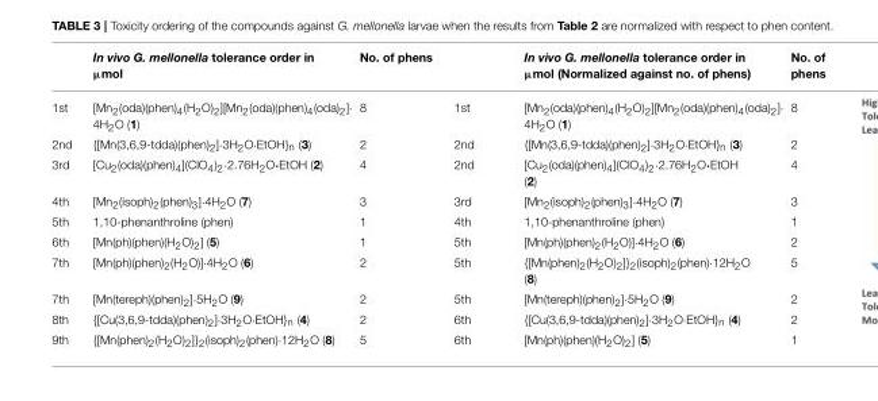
<table><thead><tr><td></td><td>In vivo G. mellonella tolerance order in µmol</td><td>No. of phens</td><td></td><td>In vivo G. mellonella tolerance order in µmol (Normalized against no. of phens)</td><td>No. of phens</td></tr></thead><tbody><tr><td>1st</td><td>[Mn<sub>2</sub>(oda)(phen)<sub>4</sub>(H<sub>2</sub>O)<sub>2</sub>][Mn<sub>2</sub>(oda)(phen)<sub>4</sub>(oda)<sub>2</sub>]· 4H<sub>2</sub>O (1)</td><td>8</td><td>1st</td><td>[Mn<sub>2</sub>(oda)(phen)<sub>4</sub>(H<sub>2</sub>O)<sub>2</sub>][Mn<sub>2</sub>(oda)(phen)<sub>4</sub>(oda)<sub>2</sub>]· 4H<sub>2</sub>O (1)</td><td>8</td></tr><tr><td>2nd</td><td>{[Mn(3,6,9-tdda)(phen)<sub>2</sub>]·3H<sub>2</sub>O·EtOH}<sub>n</sub> (3)</td><td>2</td><td>2nd</td><td>{[Mn(3,6,9-tdda)(phen)<sub>2</sub>]·3H<sub>2</sub>O·EtOH}<sub>n</sub> (3)</td><td>2</td></tr><tr><td>3rd</td><td>[Cu<sub>2</sub>(oda)(phen)<sub>4</sub>](ClO<sub>4</sub>)<sub>2</sub>·2.76H<sub>2</sub>O·EtOH (2)</td><td>4</td><td>2nd</td><td>[Cu<sub>2</sub>(oda)(phen)<sub>4</sub>](ClO<sub>4</sub>)<sub>2</sub>·2.76H<sub>2</sub>O·EtOH (2)</td><td>4</td></tr><tr><td>4th</td><td>[Mn<sub>2</sub>(isoph)<sub>2</sub>(phen)<sub>3</sub>]·4H<sub>2</sub>O (7)</td><td>3</td><td>3rd</td><td>[Mn<sub>2</sub>(isoph)<sub>2</sub>(phen)<sub>3</sub>]·4H<sub>2</sub>O (7)</td><td>3</td></tr><tr><td>5th</td><td>1,10-phenanthroline (phen)</td><td>1</td><td>4th</td><td>1,10-phenanthroline (phen)</td><td>1</td></tr><tr><td>6th</td><td>[Mn(ph)(phen)(H<sub>2</sub>O)<sub>2</sub>] (5)</td><td>1</td><td>5th</td><td>[Mn(ph)(phen)<sub>2</sub>(H<sub>2</sub>O)]·4H<sub>2</sub>O (6)</td><td>2</td></tr><tr><td>7th</td><td>[Mn(ph)(phen)<sub>2</sub>(H<sub>2</sub>O)]·4H<sub>2</sub>O (6)</td><td>2</td><td>5th</td><td>{[Mn(phen)<sub>2</sub>(H<sub>2</sub>O)<sub>2</sub>]}<sub>2</sub>(isoph)<sub>2</sub>(phen)·12H<sub>2</sub>O (8)</td><td>5</td></tr><tr><td>7th</td><td>[Mn(tereph)(phen)<sub>2</sub>]·5H<sub>2</sub>O (9)</td><td>2</td><td>5th</td><td>[Mn(tereph)(phen)<sub>2</sub>]·5H<sub>2</sub>O (9)</td><td>2</td></tr><tr><td>8th</td><td>{[Cu(3,6,9-tdda)(phen)<sub>2</sub>]·3H<sub>2</sub>O·EtOH}<sub>n</sub> (4)</td><td>2</td><td>6th</td><td>{[Cu(3,6,9-tdda)(phen)<sub>2</sub>]·3H<sub>2</sub>O·EtOH}<sub>n</sub> (4)</td><td>2</td></tr><tr><td>9th</td><td>{[Mn(phen)<sub>2</sub>(H<sub>2</sub>O)<sub>2</sub>]}<sub>2</sub>(isoph)<sub>2</sub>(phen)·12H<sub>2</sub>O (8)</td><td>5</td><td>6th</td><td>[Mn(ph)(phen)(H<sub>2</sub>O)<sub>2</sub>] (5)</td><td>1</td></tr></tbody></table>